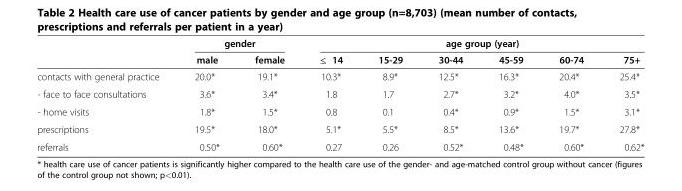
<table><thead><tr><td rowspan="2"></td><td colspan="2">gender</td><td colspan="6">age group (year)</td></tr><tr><td>male</td><td>female</td><td>≤ 14</td><td>15-29</td><td>30-44</td><td>45-59</td><td>60-74</td><td>75+</td></tr></thead><tbody><tr><td>contacts with general practice</td><td>20.0*</td><td>19.1*</td><td>10.3*</td><td>8.9*</td><td>12.5*</td><td>16.3*</td><td>20.4*</td><td>25.4*</td></tr><tr><td>- face to face consultations</td><td>3.6*</td><td>3.4*</td><td>1.8</td><td>1.7</td><td>2.7*</td><td>3.2*</td><td>4.0*</td><td>3.5*</td></tr><tr><td>- home visits</td><td>1.8*</td><td>1.5*</td><td>0.8</td><td>0.1</td><td>0.4*</td><td>0.9*</td><td>1.5*</td><td>3.1*</td></tr><tr><td>prescriptions</td><td>19.5*</td><td>18.0*</td><td>5.1*</td><td>5.5*</td><td>8.5*</td><td>13.6*</td><td>19.7*</td><td>27.8*</td></tr><tr><td>referrals</td><td>0.50*</td><td>0.60*</td><td>0.27</td><td>0.26</td><td>0.52*</td><td>0.48*</td><td>0.60*</td><td>0.62*</td></tr></tbody></table>